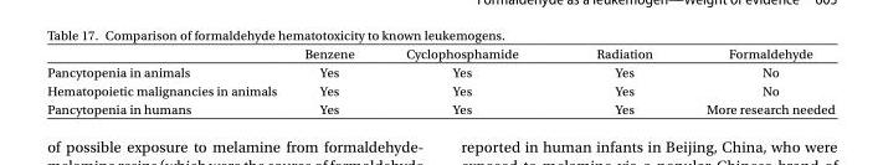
<table><thead><tr><td></td><td>Benzene</td><td>Cyclophosphamide</td><td>Radiation</td><td>Formaldehyde</td></tr></thead><tbody><tr><td>Pancytopenia in animals</td><td>Yes</td><td>Yes</td><td>Yes</td><td>No</td></tr><tr><td>Hematopoietic malignancies in animals</td><td>Yes</td><td>Yes</td><td>Yes</td><td>No</td></tr><tr><td>Pancytopenia in humans</td><td>Yes</td><td>Yes</td><td>Yes</td><td>More research needed</td></tr></tbody></table>